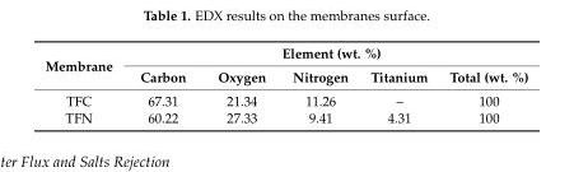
<table><thead><tr><td rowspan="2">Membrane</td><td colspan="5">Element (wt. %)</td></tr><tr><td>Carbon</td><td>Oxygen</td><td>Nitrogen</td><td>Titanium</td><td>Total (wt. %)</td></tr></thead><tbody><tr><td>TFC</td><td>67.31</td><td>21.34</td><td>11.26</td><td>–</td><td>100</td></tr><tr><td>TFN</td><td>60.22</td><td>27.33</td><td>9.41</td><td>4.31</td><td>100</td></tr></tbody></table>